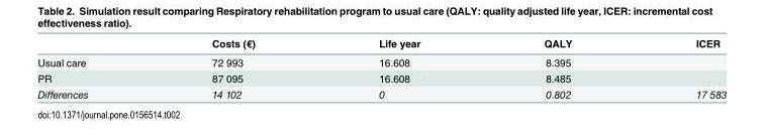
<table><thead><tr><td></td><td>Costs (€)</td><td>Life year</td><td>QALY</td><td>ICER</td></tr></thead><tbody><tr><td>Usual care</td><td>72 993</td><td>16.608</td><td>8.395</td><td></td></tr><tr><td>PR</td><td>87 095</td><td>16.608</td><td>8.485</td><td></td></tr><tr><td>Differences</td><td>14 102</td><td>0</td><td>0.802</td><td>17 583</td></tr></tbody></table>